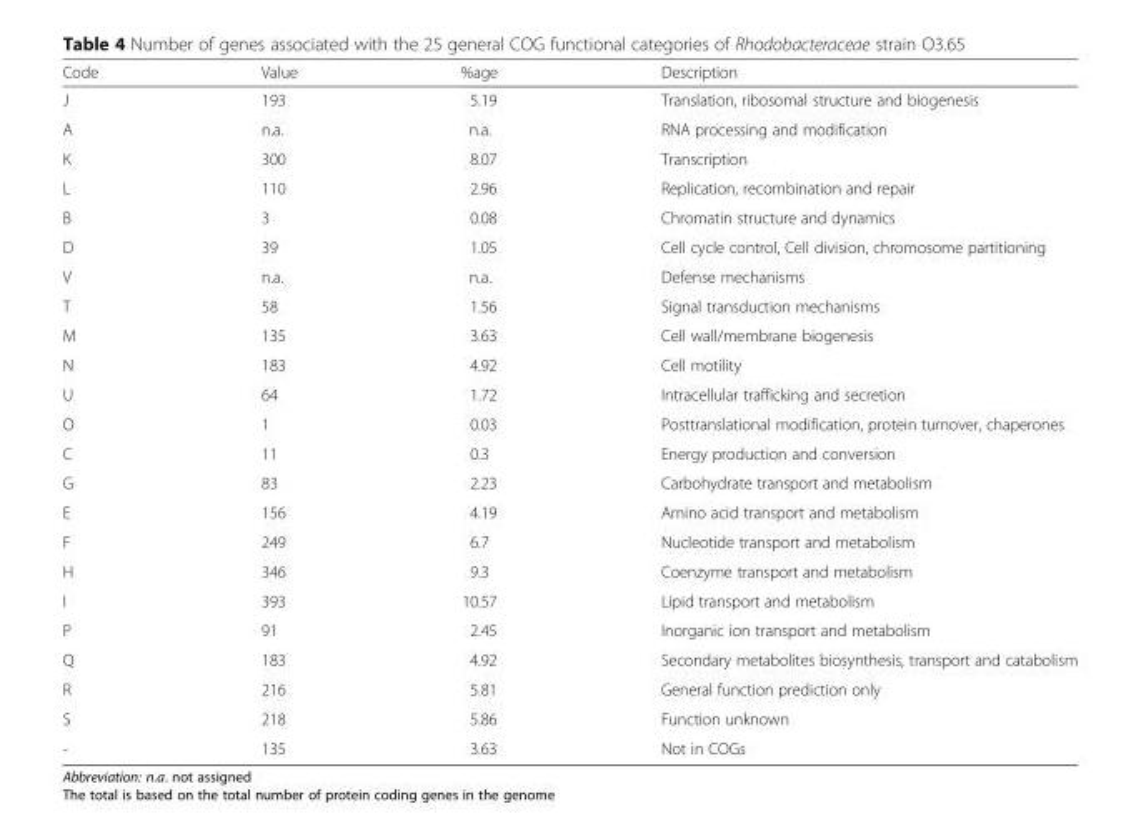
<table><thead><tr><td>Code</td><td>Value</td><td>%age</td><td>Description</td></tr></thead><tbody><tr><td>J</td><td>193</td><td>5.19</td><td>Translation, ribosomal structure and biogenesis</td></tr><tr><td>A</td><td>n.a.</td><td>n.a.</td><td>RNA processing and modification</td></tr><tr><td>K</td><td>300</td><td>8.07</td><td>Transcription</td></tr><tr><td>L</td><td>110</td><td>2.96</td><td>Replication, recombination and repair</td></tr><tr><td>B</td><td>3</td><td>0.08</td><td>Chromatin structure and dynamics</td></tr><tr><td>D</td><td>39</td><td>1.05</td><td>Cell cycle control, Cell division, chromosome partitioning</td></tr><tr><td>V</td><td>n.a.</td><td>n.a.</td><td>Defense mechanisms</td></tr><tr><td>T</td><td>58</td><td>1.56</td><td>Signal transduction mechanisms</td></tr><tr><td>M</td><td>135</td><td>3.63</td><td>Cell wall/membrane biogenesis</td></tr><tr><td>N</td><td>183</td><td>4.92</td><td>Cell motility</td></tr><tr><td>U</td><td>64</td><td>1.72</td><td>Intracellular trafficking and secretion</td></tr><tr><td>O</td><td>1</td><td>0.03</td><td>Posttranslational modification, protein turnover, chaperones</td></tr><tr><td>C</td><td>11</td><td>0.3</td><td>Energy production and conversion</td></tr><tr><td>G</td><td>83</td><td>2.23</td><td>Carbohydrate transport and metabolism</td></tr><tr><td>E</td><td>156</td><td>4.19</td><td>Amino acid transport and metabolism</td></tr><tr><td>F</td><td>249</td><td>6.7</td><td>Nucleotide transport and metabolism</td></tr><tr><td>H</td><td>346</td><td>9.3</td><td>Coenzyme transport and metabolism</td></tr><tr><td>I</td><td>393</td><td>10.57</td><td>Lipid transport and metabolism</td></tr><tr><td>P</td><td>91</td><td>2.45</td><td>Inorganic ion transport and metabolism</td></tr><tr><td>Q</td><td>183</td><td>4.92</td><td>Secondary metabolites biosynthesis, transport and catabolism</td></tr><tr><td>R</td><td>216</td><td>5.81</td><td>General function prediction only</td></tr><tr><td>S</td><td>218</td><td>5.86</td><td>Function unknown</td></tr><tr><td>-</td><td>135</td><td>3.63</td><td>Not in COGs</td></tr></tbody></table>